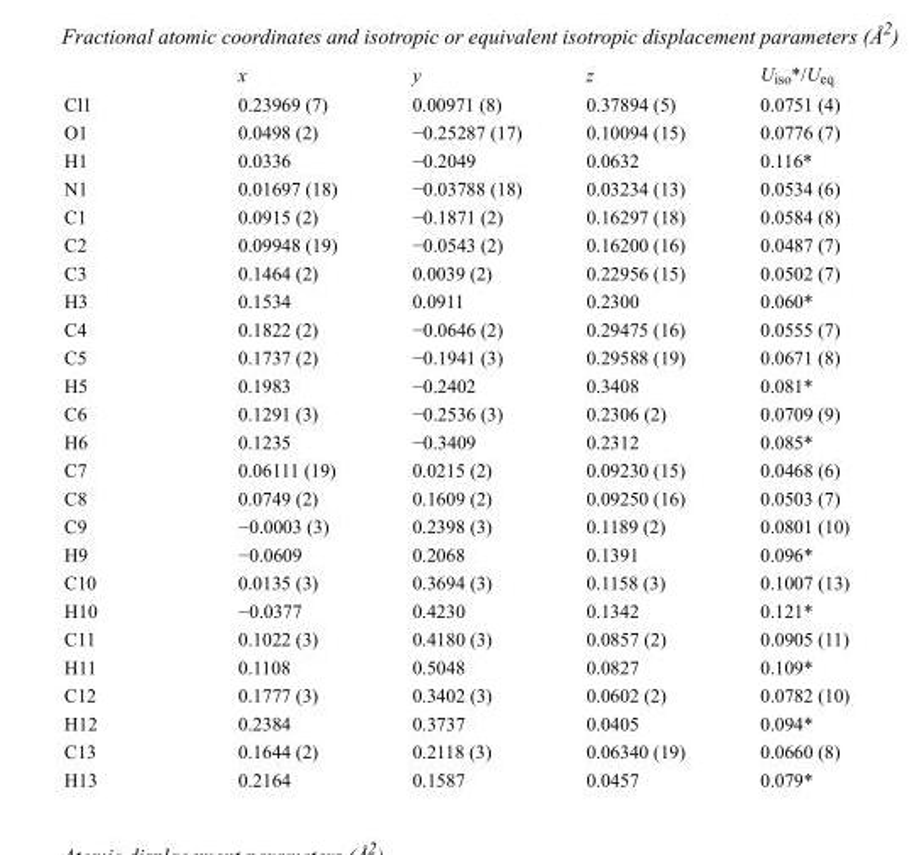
<table><thead><tr><td></td><td>x</td><td>y</td><td>z</td><td>U<sub>iso</sub>*/U<sub>eq</sub></td></tr></thead><tbody><tr><td>Cl1</td><td>0.23969 (7)</td><td>0.00971 (8)</td><td>0.37894 (5)</td><td>0.0751 (4)</td></tr><tr><td>O1</td><td>0.0498 (2)</td><td>−0.25287 (17)</td><td>0.10094 (15)</td><td>0.0776 (7)</td></tr><tr><td>H1</td><td>0.0336</td><td>−0.2049</td><td>0.0632</td><td>0.116*</td></tr><tr><td>N1</td><td>0.01697 (18)</td><td>−0.03788 (18)</td><td>0.03234 (13)</td><td>0.0534 (6)</td></tr><tr><td>C1</td><td>0.0915 (2)</td><td>−0.1871 (2)</td><td>0.16297 (18)</td><td>0.0584 (8)</td></tr><tr><td>C2</td><td>0.09948 (19)</td><td>−0.0543 (2)</td><td>0.16200 (16)</td><td>0.0487 (7)</td></tr><tr><td>C3</td><td>0.1464 (2)</td><td>0.0039 (2)</td><td>0.22956 (15)</td><td>0.0502 (7)</td></tr><tr><td>H3</td><td>0.1534</td><td>0.0911</td><td>0.2300</td><td>0.060*</td></tr><tr><td>C4</td><td>0.1822 (2)</td><td>−0.0646 (2)</td><td>0.29475 (16)</td><td>0.0555 (7)</td></tr><tr><td>C5</td><td>0.1737 (2)</td><td>−0.1941 (3)</td><td>0.29588 (19)</td><td>0.0671 (8)</td></tr><tr><td>H5</td><td>0.1983</td><td>−0.2402</td><td>0.3408</td><td>0.081*</td></tr><tr><td>C6</td><td>0.1291 (3)</td><td>−0.2536 (3)</td><td>0.2306 (2)</td><td>0.0709 (9)</td></tr><tr><td>H6</td><td>0.1235</td><td>−0.3409</td><td>0.2312</td><td>0.085*</td></tr><tr><td>C7</td><td>0.06111 (19)</td><td>0.0215 (2)</td><td>0.09230 (15)</td><td>0.0468 (6)</td></tr><tr><td>C8</td><td>0.0749 (2)</td><td>0.1609 (2)</td><td>0.09250 (16)</td><td>0.0503 (7)</td></tr><tr><td>C9</td><td>−0.0003 (3)</td><td>0.2398 (3)</td><td>0.1189 (2)</td><td>0.0801 (10)</td></tr><tr><td>H9</td><td>−0.0609</td><td>0.2068</td><td>0.1391</td><td>0.096*</td></tr><tr><td>C10</td><td>0.0135 (3)</td><td>0.3694 (3)</td><td>0.1158 (3)</td><td>0.1007 (13)</td></tr><tr><td>H10</td><td>−0.0377</td><td>0.4230</td><td>0.1342</td><td>0.121*</td></tr><tr><td>C11</td><td>0.1022 (3)</td><td>0.4180 (3)</td><td>0.0857 (2)</td><td>0.0905 (11)</td></tr><tr><td>H11</td><td>0.1108</td><td>0.5048</td><td>0.0827</td><td>0.109*</td></tr><tr><td>C12</td><td>0.1777 (3)</td><td>0.3402 (3)</td><td>0.0602 (2)</td><td>0.0782 (10)</td></tr><tr><td>H12</td><td>0.2384</td><td>0.3737</td><td>0.0405</td><td>0.094*</td></tr><tr><td>C13</td><td>0.1644 (2)</td><td>0.2118 (3)</td><td>0.06340 (19)</td><td>0.0660 (8)</td></tr><tr><td>H13</td><td>0.2164</td><td>0.1587</td><td>0.0457</td><td>0.079*</td></tr></tbody></table>